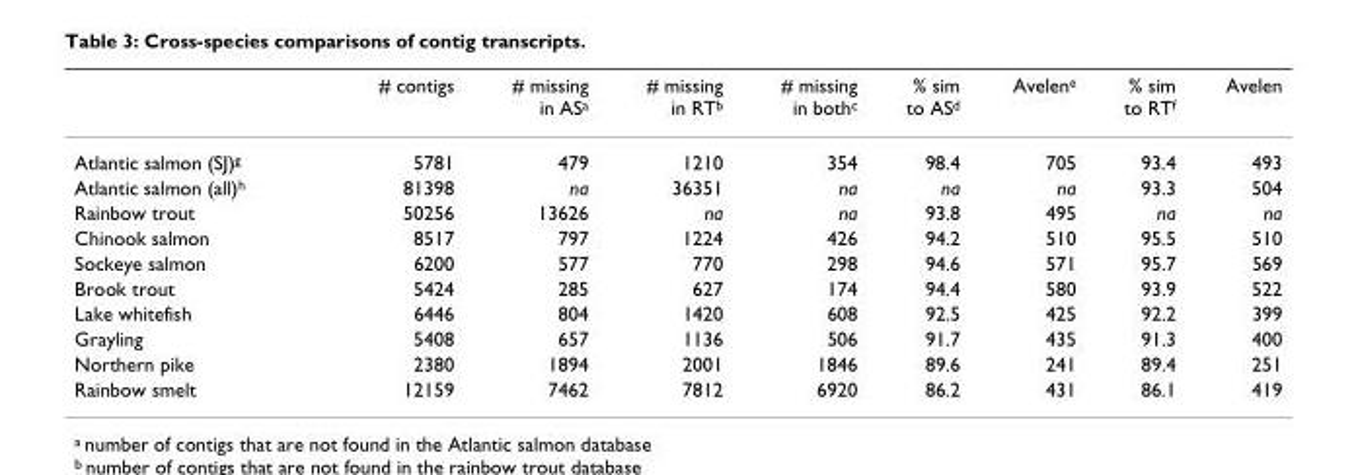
<table><thead><tr><td></td><td># contigs</td><td># missing in AS<sup>a</sup></td><td># missing in RT<sup>b</sup></td><td># missing in both<sup>c</sup></td><td>% sim to AS<sup>d</sup></td><td>Avelen<sup>e</sup></td><td>% sim to RT<sup>f</sup></td><td>Avelen</td></tr></thead><tbody><tr><td>Atlantic salmon (SJ)<sup>g</sup></td><td>5781</td><td>479</td><td>1210</td><td>354</td><td>98.4</td><td>705</td><td>93.4</td><td>493</td></tr><tr><td>Atlantic salmon (all)<sup>h</sup></td><td>81398</td><td>na</td><td>36351</td><td>na</td><td>na</td><td>na</td><td>93.3</td><td>504</td></tr><tr><td>Rainbow trout</td><td>50256</td><td>13626</td><td>na</td><td>na</td><td>93.8</td><td>495</td><td>na</td><td>na</td></tr><tr><td>Chinook salmon</td><td>8517</td><td>797</td><td>1224</td><td>426</td><td>94.2</td><td>510</td><td>95.5</td><td>510</td></tr><tr><td>Sockeye salmon</td><td>6200</td><td>577</td><td>770</td><td>298</td><td>94.6</td><td>571</td><td>95.7</td><td>569</td></tr><tr><td>Brook trout</td><td>5424</td><td>285</td><td>627</td><td>174</td><td>94.4</td><td>580</td><td>93.9</td><td>522</td></tr><tr><td>Lake whitefish</td><td>6446</td><td>804</td><td>1420</td><td>608</td><td>92.5</td><td>425</td><td>92.2</td><td>399</td></tr><tr><td>Grayling</td><td>5408</td><td>657</td><td>1136</td><td>506</td><td>91.7</td><td>435</td><td>91.3</td><td>400</td></tr><tr><td>Northern pike</td><td>2380</td><td>1894</td><td>2001</td><td>1846</td><td>89.6</td><td>241</td><td>89.4</td><td>251</td></tr><tr><td>Rainbow smelt</td><td>12159</td><td>7462</td><td>7812</td><td>6920</td><td>86.2</td><td>431</td><td>86.1</td><td>419</td></tr></tbody></table>